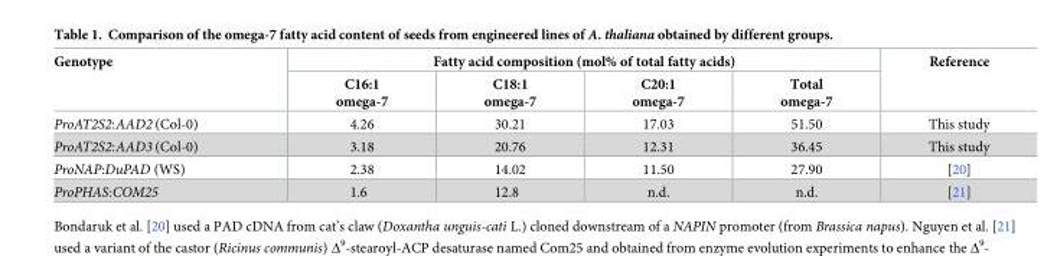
<table><thead><tr><td rowspan="2">Genotype</td><td colspan="4">Fatty acid composition (mol% of total fatty acids)</td><td rowspan="2">Reference</td></tr><tr><td>C16:1 omega-7</td><td>C18:1 omega-7</td><td>C20:1 omega-7</td><td>Total omega-7</td></tr></thead><tbody><tr><td>ProAT2S2:AAD2 (Col-0)</td><td>4.26</td><td>30.21</td><td>17.03</td><td>51.50</td><td>This study</td></tr><tr><td>ProAT2S2:AAD3 (Col-0)</td><td>3.18</td><td>20.76</td><td>12.31</td><td>36.45</td><td>This study</td></tr><tr><td>ProNAP:DuPAD (WS)</td><td>2.38</td><td>14.02</td><td>11.50</td><td>27.90</td><td>[20]</td></tr><tr><td>ProPHAS:COM25</td><td>1.6</td><td>12.8</td><td>n.d.</td><td>n.d.</td><td>[21]</td></tr></tbody></table>